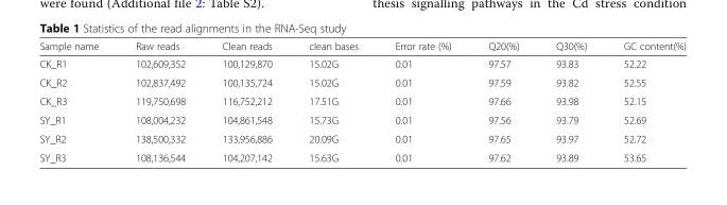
<table><thead><tr><td>Sample name</td><td>Raw reads</td><td>Clean reads</td><td>clean bases</td><td>Error rate (%)</td><td>Q20(%)</td><td>Q30(%)</td><td>GC content(%)</td></tr></thead><tbody><tr><td>CK_R1</td><td>102,609,352</td><td>100,129,870</td><td>15.02G</td><td>0.01</td><td>97.57</td><td>93.83</td><td>52.22</td></tr><tr><td>CK_R2</td><td>102,837,492</td><td>100,135,724</td><td>15.02G</td><td>0.01</td><td>97.59</td><td>93.82</td><td>52.55</td></tr><tr><td>CK_R3</td><td>119,750,698</td><td>116,752,212</td><td>17.51G</td><td>0.01</td><td>97.66</td><td>93.98</td><td>52.15</td></tr><tr><td>SY_R1</td><td>108,004,232</td><td>104,861,548</td><td>15.73G</td><td>0.01</td><td>97.56</td><td>93.79</td><td>52.69</td></tr><tr><td>SY_R2</td><td>138,500,332</td><td>133,956,886</td><td>20.09G</td><td>0.01</td><td>97.65</td><td>93.97</td><td>52.72</td></tr><tr><td>SY_R3</td><td>108,136,544</td><td>104,207,142</td><td>15.63G</td><td>0.01</td><td>97.62</td><td>93.89</td><td>53.65</td></tr></tbody></table>